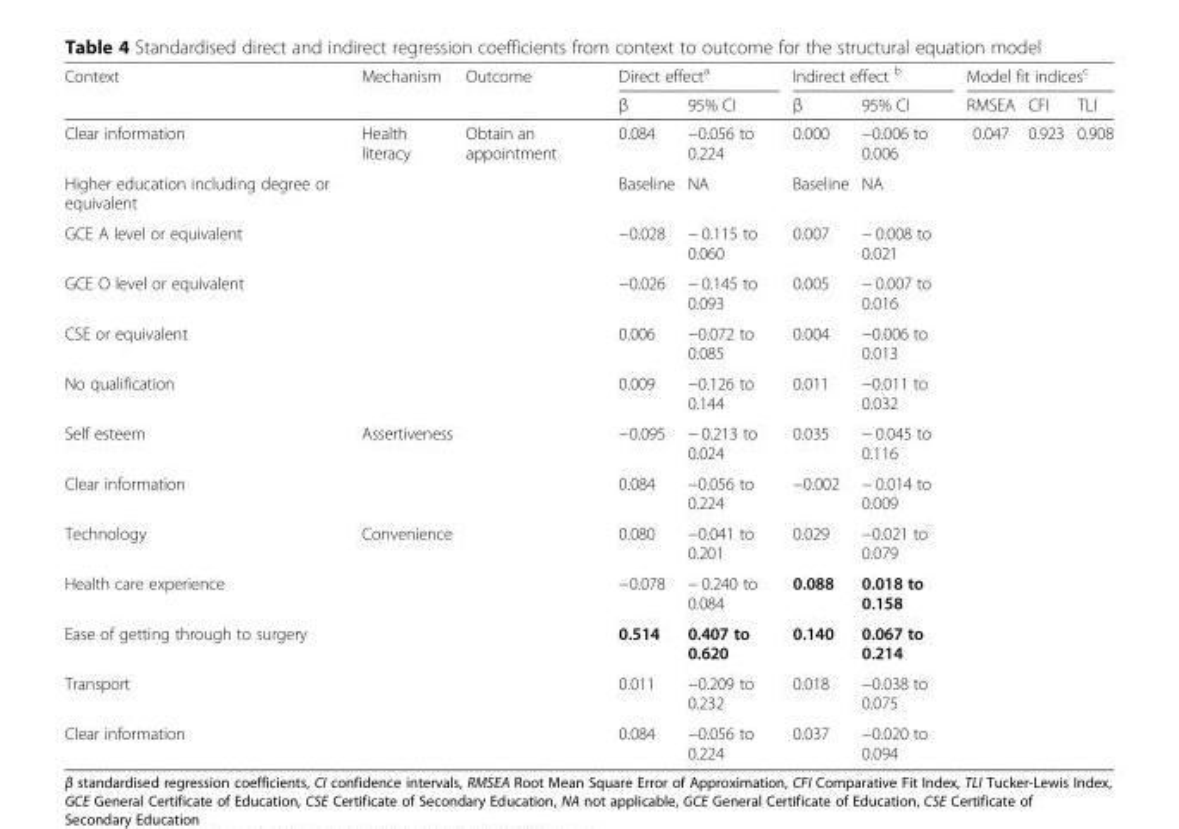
<table><thead><tr><td rowspan="2">Context</td><td rowspan="2">Mechanism</td><td rowspan="2">Outcome</td><td colspan="2">Direct effect<sup>a</sup></td><td colspan="2">Indirect effect <sup>b</sup></td><td colspan="3">Model fit indices<sup>c</sup></td></tr><tr><td>β</td><td>95% CI</td><td>β</td><td>95% CI</td><td>RMSEA</td><td>CFI</td><td>TLI</td></tr></thead><tbody><tr><td>Clear information</td><td rowspan="6">Health literacy</td><td rowspan="13">Obtain an appointment</td><td>0.084</td><td>−0.056 to 0.224</td><td>0.000</td><td>−0.006 to 0.006</td><td rowspan="13">0.047</td><td rowspan="13">0.923</td><td rowspan="13">0.908</td></tr><tr><td>Higher education including degree or equivalent</td><td>Baseline</td><td>NA</td><td>Baseline</td><td>NA</td></tr><tr><td>GCE A level or equivalent</td><td>−0.028</td><td>− 0.115 to 0.060</td><td>0.007</td><td>− 0.008 to 0.021</td></tr><tr><td>GCE O level or equivalent</td><td>−0.026</td><td>− 0.145 to 0.093</td><td>0.005</td><td>− 0.007 to 0.016</td></tr><tr><td>CSE or equivalent</td><td>0.006</td><td>−0.072 to 0.085</td><td>0.004</td><td>−0.006 to 0.013</td></tr><tr><td>No qualification</td><td>0.009</td><td>−0.126 to 0.144</td><td>0.011</td><td>−0.011 to 0.032</td></tr><tr><td>Self esteem</td><td rowspan="2">Assertiveness</td><td>−0.095</td><td>− 0.213 to 0.024</td><td>0.035</td><td>− 0.045 to 0.116</td></tr><tr><td>Clear information</td><td>0.084</td><td>−0.056 to 0.224</td><td>−0.002</td><td>− 0.014 to 0.009</td></tr><tr><td>Technology</td><td rowspan="5">Convenience</td><td>0.080</td><td>−0.041 to 0.201</td><td>0.029</td><td>−0.021 to 0.079</td></tr><tr><td>Health care experience</td><td>−0.078</td><td>− 0.240 to 0.084</td><td>0.088</td><td>0.018 to 0.158</td></tr><tr><td>Ease of getting through to surgery</td><td>0.514</td><td>0.407 to 0.620</td><td>0.140</td><td>0.067 to 0.214</td></tr><tr><td>Transport</td><td>0.011</td><td>−0.209 to 0.232</td><td>0.018</td><td>−0.038 to 0.075</td></tr><tr><td>Clear information</td><td>0.084</td><td>−0.056 to 0.224</td><td>0.037</td><td>−0.020 to 0.094</td></tr></tbody></table>